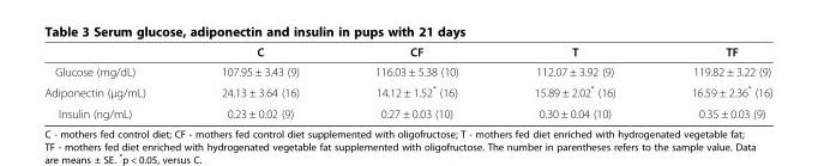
<table><thead><tr><td></td><td>C</td><td>CF</td><td>T</td><td>TF</td></tr></thead><tbody><tr><td>Glucose (mg/dL)</td><td>107.95 ± 3.43 (9)</td><td>116.03 ± 5.38 (10)</td><td>112.07 ± 3.92 (9)</td><td>119.82 ± 3.22 (9)</td></tr><tr><td>Adiponectin (μg/mL)</td><td>24.13 ± 3.64 (16)</td><td>14.12 ± 1.52* (16)</td><td>15.89 ± 2.02* (16)</td><td>16.59 ± 2.36* (16)</td></tr><tr><td>Insulin (ng/mL)</td><td>0.23 ± 0.02 (9)</td><td>0.27 ± 0.03 (10)</td><td>0.30 ± 0.04 (10)</td><td>0.35 ± 0.03 (9)</td></tr></tbody></table>